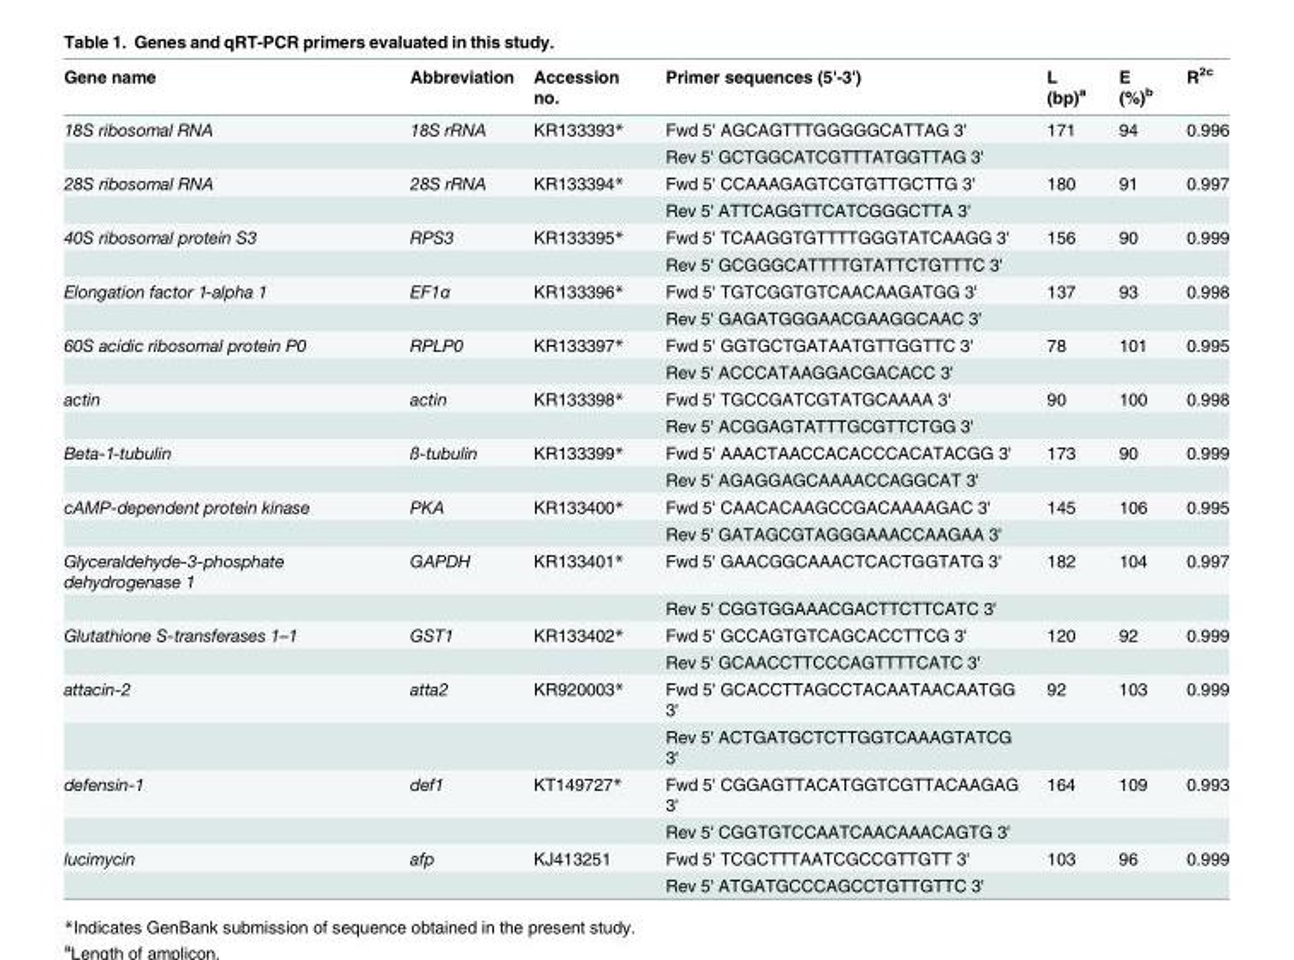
<table><thead><tr><td>Gene name</td><td>Abbreviation</td><td>Accession no.</td><td>Primer sequences (5&#x27;-3&#x27;)</td><td>L (bp)<sup>a</sup></td><td>E (%)<sup>b</sup></td><td>R<sup>2c</sup></td></tr></thead><tbody><tr><td rowspan="2">18S ribosomal RNA</td><td>18S rRNA</td><td>KR133393*</td><td>Fwd 5&#x27; AGCAGTTTGGGGGCATTAG 3&#x27;</td><td>171</td><td>94</td><td>0.996</td></tr><tr><td></td><td></td><td>Rev 5&#x27; GCTGGCATCGTTTATGGTTAG 3&#x27;</td><td></td><td></td><td></td></tr><tr><td rowspan="2">28S ribosomal RNA</td><td>28S rRNA</td><td>KR133394*</td><td>Fwd 5&#x27; CCAAAGAGTCGTGTTGCTTG 3&#x27;</td><td>180</td><td>91</td><td>0.997</td></tr><tr><td></td><td></td><td>Rev 5&#x27; ATTCAGGTTCATCGGGCTTA 3&#x27;</td><td></td><td></td><td></td></tr><tr><td rowspan="2">40S ribosomal protein S3</td><td>RPS3</td><td>KR133395*</td><td>Fwd 5&#x27; TCAAGGTGTTTTGGGTATCAAGG 3&#x27;</td><td>156</td><td>90</td><td>0.999</td></tr><tr><td></td><td></td><td>Rev 5&#x27; GCGGGCATTTTGTATTCTGTTTC 3&#x27;</td><td></td><td></td><td></td></tr><tr><td rowspan="2">Elongation factor 1-alpha 1</td><td>EF1α</td><td>KR133396*</td><td>Fwd 5&#x27; TGTCGGTGTCAACAAGATGG 3&#x27;</td><td>137</td><td>93</td><td>0.998</td></tr><tr><td></td><td></td><td>Rev 5&#x27; GAGATGGGAACGAAGGCAAC 3&#x27;</td><td></td><td></td><td></td></tr><tr><td rowspan="2">60S acidic ribosomal protein P0</td><td>RPLP0</td><td>KR133397*</td><td>Fwd 5&#x27; GGTGCTGATAATGTTGGTTC 3&#x27;</td><td>78</td><td>101</td><td>0.995</td></tr><tr><td></td><td></td><td>Rev 5&#x27; ACCCATAAGGACGACACC 3&#x27;</td><td></td><td></td><td></td></tr><tr><td rowspan="2">actin</td><td>actin</td><td>KR133398*</td><td>Fwd 5&#x27; TGCCGATCGTATGCAAAA 3&#x27;</td><td>90</td><td>100</td><td>0.998</td></tr><tr><td></td><td></td><td>Rev 5&#x27; ACGGAGTATTTGCGTTCTGG 3&#x27;</td><td></td><td></td><td></td></tr><tr><td rowspan="2">Beta-1-tubulin</td><td>ß-tubulin</td><td>KR133399*</td><td>Fwd 5&#x27; AAACTAACCACACCCACATACGG 3&#x27;</td><td>173</td><td>90</td><td>0.999</td></tr><tr><td></td><td></td><td>Rev 5&#x27; AGAGGAGCAAAACCAGGCAT 3&#x27;</td><td></td><td></td><td></td></tr><tr><td rowspan="2">cAMP-dependent protein kinase</td><td>PKA</td><td>KR133400*</td><td>Fwd 5&#x27; CAACACAAGCCGACAAAAGAC 3&#x27;</td><td>145</td><td>106</td><td>0.995</td></tr><tr><td></td><td></td><td>Rev 5&#x27; GATAGCGTAGGGAAACCAAGAA 3&#x27;</td><td></td><td></td><td></td></tr><tr><td rowspan="2">Glyceraldehyde-3-phosphate dehydrogenase 1</td><td>GAPDH</td><td>KR133401*</td><td>Fwd 5&#x27; GAACGGCAAACTCACTGGTATG 3&#x27;</td><td>182</td><td>104</td><td>0.997</td></tr><tr><td></td><td></td><td>Rev 5&#x27; CGGTGGAAACGACTTCTTCATC 3&#x27;</td><td></td><td></td><td></td></tr><tr><td rowspan="2">Glutathione S-transferases 1–1</td><td>GST1</td><td>KR133402*</td><td>Fwd 5&#x27; GCCAGTGTCAGCACCTTCG 3&#x27;</td><td>120</td><td>92</td><td>0.999</td></tr><tr><td></td><td></td><td>Rev 5&#x27; GCAACCTTCCCAGTTTTCATC 3&#x27;</td><td></td><td></td><td></td></tr><tr><td rowspan="2">attacin-2</td><td>atta2</td><td>KR920003*</td><td>Fwd 5&#x27; GCACCTTAGCCTACAATAACAATGG 3&#x27;</td><td>92</td><td>103</td><td>0.999</td></tr><tr><td></td><td></td><td>Rev 5&#x27; ACTGATGCTCTTGGTCAAAGTATCG 3&#x27;</td><td></td><td></td><td></td></tr><tr><td rowspan="2">defensin-1</td><td>def1</td><td>KT149727*</td><td>Fwd 5&#x27; CGGAGTTACATGGTCGTTACAAGAG 3&#x27;</td><td>164</td><td>109</td><td>0.993</td></tr><tr><td></td><td></td><td>Rev 5&#x27; CGGTGTCCAATCAACAAACAGTG 3&#x27;</td><td></td><td></td><td></td></tr><tr><td rowspan="2">lucimycin</td><td>afp</td><td>KJ413251</td><td>Fwd 5&#x27; TCGCTTTAATCGCCGTTGTT 3&#x27;</td><td>103</td><td>96</td><td>0.999</td></tr><tr><td></td><td></td><td>Rev 5&#x27; ATGATGCCCAGCCTGTTGTTC 3&#x27;</td><td></td><td></td><td></td></tr></tbody></table>